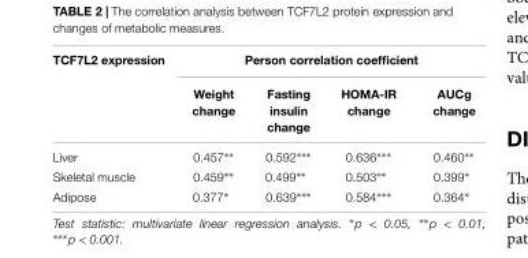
<table><thead><tr><td rowspan="2">TCF7L2 expression</td><td colspan="4">Person correlation coefficient</td></tr><tr><td>Weight change</td><td>Fasting insulin change</td><td>HOMA-IR change</td><td>AUCg change</td></tr></thead><tbody><tr><td>Liver</td><td>0.457∗∗</td><td>0.592∗∗∗</td><td>0.636∗∗∗</td><td>0.460∗∗</td></tr><tr><td>Skeletal muscle</td><td>0.459∗∗</td><td>0.499∗∗</td><td>0.503∗∗</td><td>0.399∗</td></tr><tr><td>Adipose</td><td>0.377∗</td><td>0.639∗∗∗</td><td>0.584∗∗∗</td><td>0.364∗</td></tr></tbody></table>